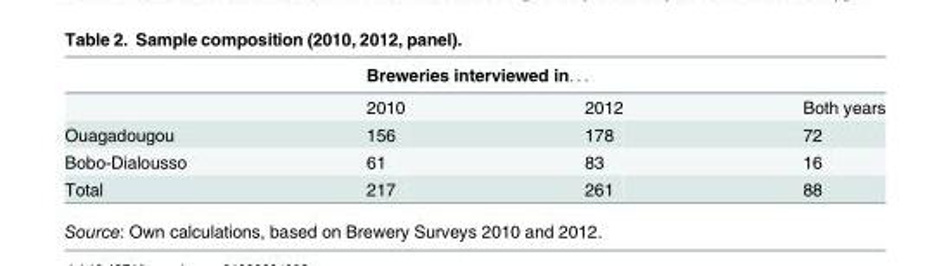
<table><thead><tr><td rowspan="2"></td><td colspan="3">Breweries interviewed in. . .</td></tr><tr><td>2010</td><td>2012</td><td>Both years</td></tr></thead><tbody><tr><td>Ouagadougou</td><td>156</td><td>178</td><td>72</td></tr><tr><td>Bobo-Dialousso</td><td>61</td><td>83</td><td>16</td></tr><tr><td>Total</td><td>217</td><td>261</td><td>88</td></tr></tbody></table>